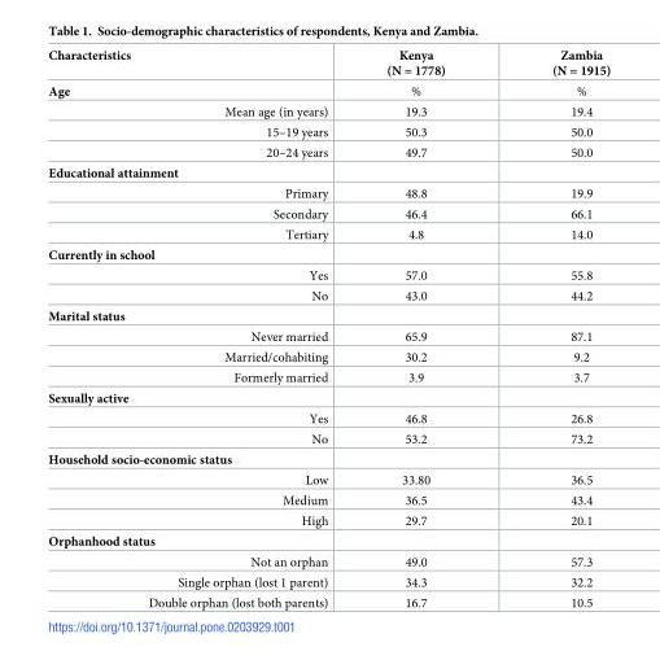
<table><thead><tr><td>Characteristics</td><td>Kenya (N = 1778)</td><td>Zambia (N = 1915)</td></tr></thead><tbody><tr><td>Age</td><td>%</td><td>%</td></tr><tr><td>Mean age (in years)</td><td>19.3</td><td>19.4</td></tr><tr><td>15–19 years</td><td>50.3</td><td>50.0</td></tr><tr><td>20–24 years</td><td>49.7</td><td>50.0</td></tr><tr><td colspan="3">Educational attainment</td></tr><tr><td>Primary</td><td>48.8</td><td>19.9</td></tr><tr><td>Secondary</td><td>46.4</td><td>66.1</td></tr><tr><td>Tertiary</td><td>4.8</td><td>14.0</td></tr><tr><td colspan="3">Currently in school</td></tr><tr><td>Yes</td><td>57.0</td><td>55.8</td></tr><tr><td>No</td><td>43.0</td><td>44.2</td></tr><tr><td colspan="3">Marital status</td></tr><tr><td>Never married</td><td>65.9</td><td>87.1</td></tr><tr><td>Married/cohabiting</td><td>30.2</td><td>9.2</td></tr><tr><td>Formerly married</td><td>3.9</td><td>3.7</td></tr><tr><td colspan="3">Sexually active</td></tr><tr><td>Yes</td><td>46.8</td><td>26.8</td></tr><tr><td>No</td><td>53.2</td><td>73.2</td></tr><tr><td colspan="3">Household socio-economic status</td></tr><tr><td>Low</td><td>33.80</td><td>36.5</td></tr><tr><td>Medium</td><td>36.5</td><td>43.4</td></tr><tr><td>High</td><td>29.7</td><td>20.1</td></tr><tr><td colspan="3">Orphanhood status</td></tr><tr><td>Not an orphan</td><td>49.0</td><td>57.3</td></tr><tr><td>Single orphan (lost 1 parent)</td><td>34.3</td><td>32.2</td></tr><tr><td>Double orphan (lost both parents)</td><td>16.7</td><td>10.5</td></tr></tbody></table>